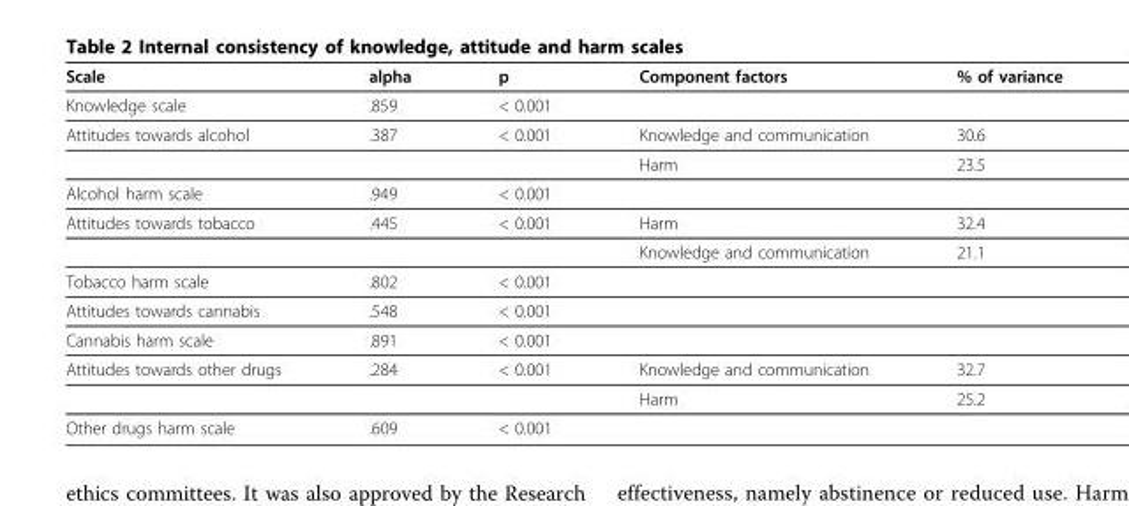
<table><thead><tr><td>Scale</td><td>alpha</td><td>p</td><td>Component factors</td><td>% of variance</td></tr></thead><tbody><tr><td>Knowledge scale</td><td>.859</td><td>&lt; 0.001</td><td></td><td></td></tr><tr><td rowspan="2">Attitudes towards alcohol</td><td>.387</td><td>&lt; 0.001</td><td>Knowledge and communication</td><td>30.6</td></tr><tr><td></td><td></td><td>Harm</td><td>23.5</td></tr><tr><td>Alcohol harm scale</td><td>.949</td><td>&lt; 0.001</td><td></td><td></td></tr><tr><td rowspan="2">Attitudes towards tobacco</td><td>.445</td><td>&lt; 0.001</td><td>Harm</td><td>32.4</td></tr><tr><td></td><td></td><td>Knowledge and communication</td><td>21.1</td></tr><tr><td>Tobacco harm scale</td><td>.802</td><td>&lt; 0.001</td><td></td><td></td></tr><tr><td>Attitudes towards cannabis</td><td>.548</td><td>&lt; 0.001</td><td></td><td></td></tr><tr><td>Cannabis harm scale</td><td>.891</td><td>&lt; 0.001</td><td></td><td></td></tr><tr><td rowspan="2">Attitudes towards other drugs</td><td>.284</td><td>&lt; 0.001</td><td>Knowledge and communication</td><td>32.7</td></tr><tr><td></td><td></td><td>Harm</td><td>25.2</td></tr><tr><td>Other drugs harm scale</td><td>.609</td><td>&lt; 0.001</td><td></td><td></td></tr></tbody></table>